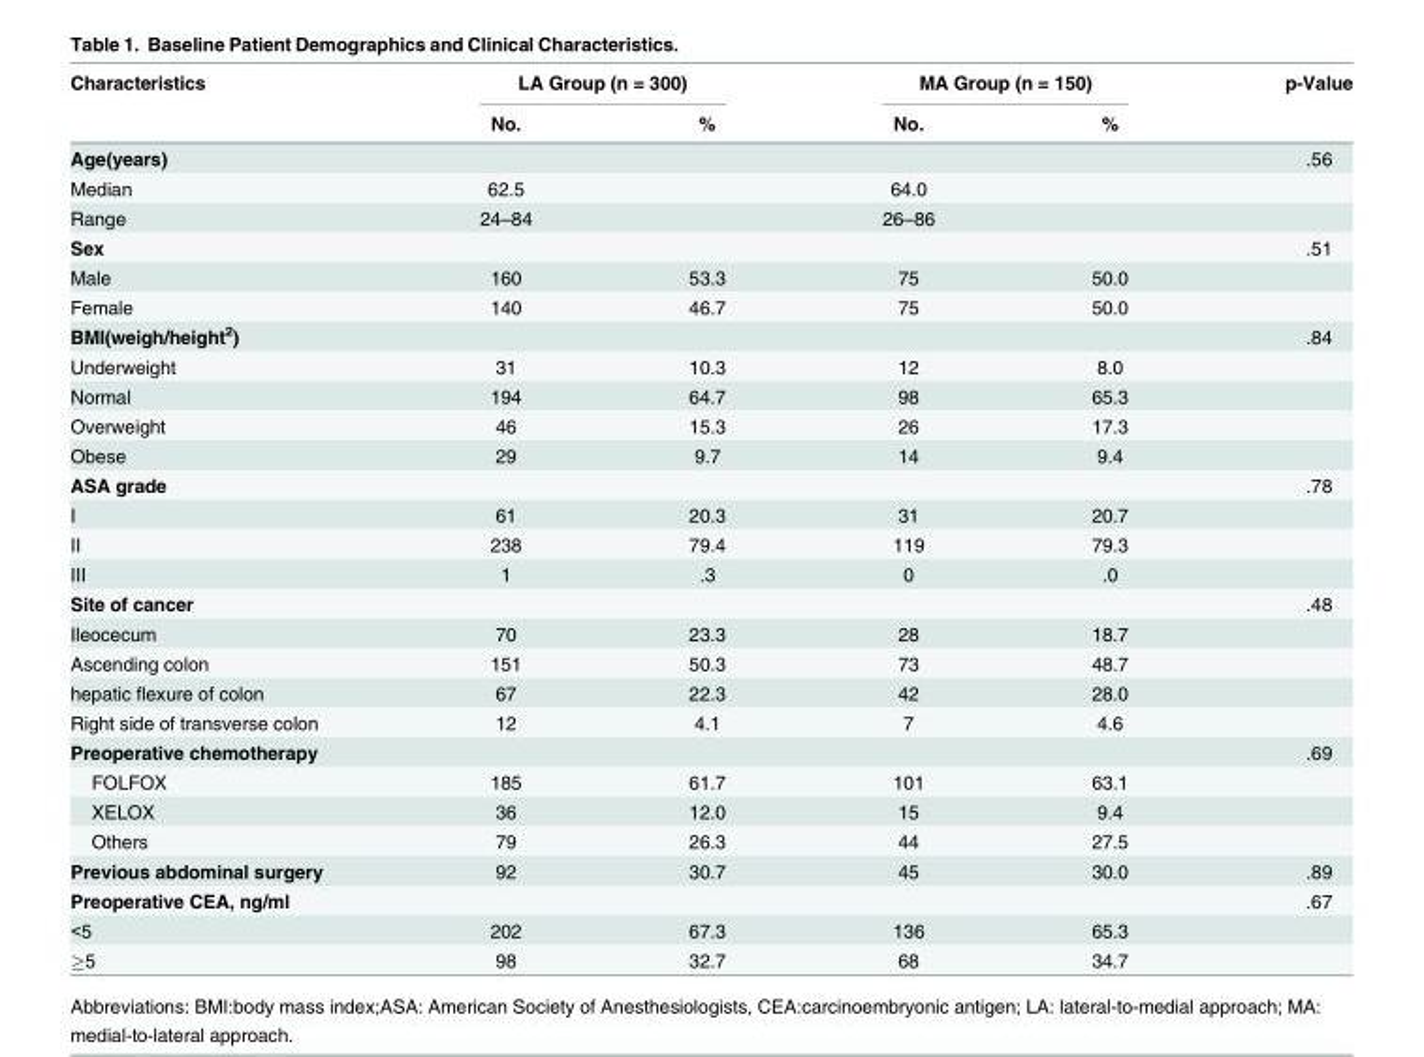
<table><thead><tr><td rowspan="2">Characteristics</td><td colspan="2">LA Group (n = 300)</td><td colspan="2">MA Group (n = 150)</td><td rowspan="2">p-Value</td></tr><tr><td>No.</td><td>%</td><td>No.</td><td>%</td></tr></thead><tbody><tr><td>Age(years)</td><td></td><td></td><td></td><td></td><td>.56</td></tr><tr><td>Median</td><td>62.5</td><td></td><td>64.0</td><td></td><td></td></tr><tr><td>Range</td><td>24–84</td><td></td><td>26–86</td><td></td><td></td></tr><tr><td>Sex</td><td></td><td></td><td></td><td></td><td>.51</td></tr><tr><td>Male</td><td>160</td><td>53.3</td><td>75</td><td>50.0</td><td></td></tr><tr><td>Female</td><td>140</td><td>46.7</td><td>75</td><td>50.0</td><td></td></tr><tr><td>BMI(weigh/height<sup>2</sup>)</td><td></td><td></td><td></td><td></td><td>.84</td></tr><tr><td>Underweight</td><td>31</td><td>10.3</td><td>12</td><td>8.0</td><td></td></tr><tr><td>Normal</td><td>194</td><td>64.7</td><td>98</td><td>65.3</td><td></td></tr><tr><td>Overweight</td><td>46</td><td>15.3</td><td>26</td><td>17.3</td><td></td></tr><tr><td>Obese</td><td>29</td><td>9.7</td><td>14</td><td>9.4</td><td></td></tr><tr><td>ASA grade</td><td></td><td></td><td></td><td></td><td>.78</td></tr><tr><td>I</td><td>61</td><td>20.3</td><td>31</td><td>20.7</td><td></td></tr><tr><td>II</td><td>238</td><td>79.4</td><td>119</td><td>79.3</td><td></td></tr><tr><td>III</td><td>1</td><td>.3</td><td>0</td><td>.0</td><td></td></tr><tr><td>Site of cancer</td><td></td><td></td><td></td><td></td><td>.48</td></tr><tr><td>Ileocecum</td><td>70</td><td>23.3</td><td>28</td><td>18.7</td><td></td></tr><tr><td>Ascending colon</td><td>151</td><td>50.3</td><td>73</td><td>48.7</td><td></td></tr><tr><td>hepatic flexure of colon</td><td>67</td><td>22.3</td><td>42</td><td>28.0</td><td></td></tr><tr><td>Right side of transverse colon</td><td>12</td><td>4.1</td><td>7</td><td>4.6</td><td></td></tr><tr><td>Preoperative chemotherapy</td><td></td><td></td><td></td><td></td><td>.69</td></tr><tr><td>FOLFOX</td><td>185</td><td>61.7</td><td>101</td><td>63.1</td><td></td></tr><tr><td>XELOX</td><td>36</td><td>12.0</td><td>15</td><td>9.4</td><td></td></tr><tr><td>Others</td><td>79</td><td>26.3</td><td>44</td><td>27.5</td><td></td></tr><tr><td>Previous abdominal surgery</td><td>92</td><td>30.7</td><td>45</td><td>30.0</td><td>.89</td></tr><tr><td>Preoperative CEA, ng/ml</td><td></td><td></td><td></td><td></td><td>.67</td></tr><tr><td>&lt;5</td><td>202</td><td>67.3</td><td>136</td><td>65.3</td><td></td></tr><tr><td>≥5</td><td>98</td><td>32.7</td><td>68</td><td>34.7</td><td></td></tr></tbody></table>